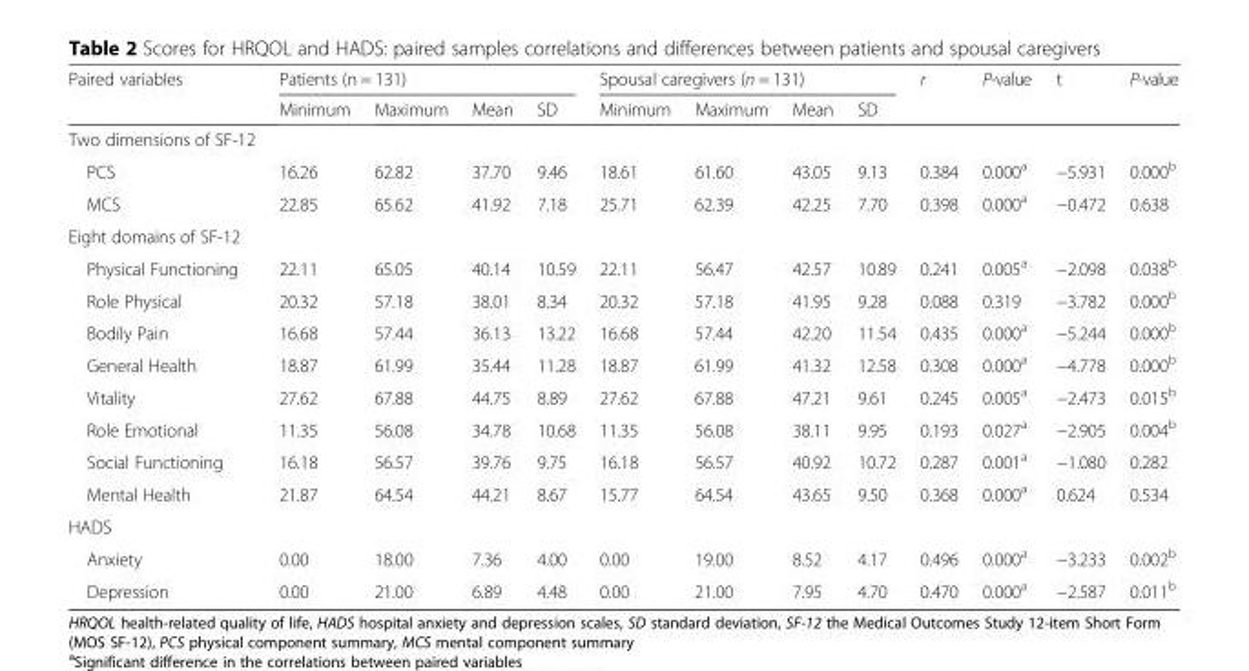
<table><thead><tr><td rowspan="2">Paired variables</td><td colspan="4">Patients (n = 131)</td><td colspan="4">Spousal caregivers (n = 131)</td><td rowspan="2">r</td><td rowspan="2">P-value</td><td rowspan="2">t</td><td rowspan="2">P-value</td></tr><tr><td>Minimum</td><td>Maximum</td><td>Mean</td><td>SD</td><td>Minimum</td><td>Maximum</td><td>Mean</td><td>SD</td></tr></thead><tbody><tr><td colspan="13">Two dimensions of SF-12</td></tr><tr><td>PCS</td><td>16.26</td><td>62.82</td><td>37.70</td><td>9.46</td><td>18.61</td><td>61.60</td><td>43.05</td><td>9.13</td><td>0.384</td><td>0.000<sup>a</sup></td><td>−5.931</td><td>0.000<sup>b</sup></td></tr><tr><td>MCS</td><td>22.85</td><td>65.62</td><td>41.92</td><td>7.18</td><td>25.71</td><td>62.39</td><td>42.25</td><td>7.70</td><td>0.398</td><td>0.000<sup>a</sup></td><td>−0.472</td><td>0.638</td></tr><tr><td colspan="13">Eight domains of SF-12</td></tr><tr><td>Physical Functioning</td><td>22.11</td><td>65.05</td><td>40.14</td><td>10.59</td><td>22.11</td><td>56.47</td><td>42.57</td><td>10.89</td><td>0.241</td><td>0.005<sup>a</sup></td><td>−2.098</td><td>0.038<sup>b</sup></td></tr><tr><td>Role Physical</td><td>20.32</td><td>57.18</td><td>38.01</td><td>8.34</td><td>20.32</td><td>57.18</td><td>41.95</td><td>9.28</td><td>0.088</td><td>0.319</td><td>−3.782</td><td>0.000<sup>b</sup></td></tr><tr><td>Bodily Pain</td><td>16.68</td><td>57.44</td><td>36.13</td><td>13.22</td><td>16.68</td><td>57.44</td><td>42.20</td><td>11.54</td><td>0.435</td><td>0.000<sup>a</sup></td><td>−5.244</td><td>0.000<sup>b</sup></td></tr><tr><td>General Health</td><td>18.87</td><td>61.99</td><td>35.44</td><td>11.28</td><td>18.87</td><td>61.99</td><td>41.32</td><td>12.58</td><td>0.308</td><td>0.000<sup>a</sup></td><td>−4.778</td><td>0.000<sup>b</sup></td></tr><tr><td>Vitality</td><td>27.62</td><td>67.88</td><td>44.75</td><td>8.89</td><td>27.62</td><td>67.88</td><td>47.21</td><td>9.61</td><td>0.245</td><td>0.005<sup>a</sup></td><td>−2.473</td><td>0.015<sup>b</sup></td></tr><tr><td>Role Emotional</td><td>11.35</td><td>56.08</td><td>34.78</td><td>10.68</td><td>11.35</td><td>56.08</td><td>38.11</td><td>9.95</td><td>0.193</td><td>0.027<sup>a</sup></td><td>−2.905</td><td>0.004<sup>b</sup></td></tr><tr><td>Social Functioning</td><td>16.18</td><td>56.57</td><td>39.76</td><td>9.75</td><td>16.18</td><td>56.57</td><td>40.92</td><td>10.72</td><td>0.287</td><td>0.001<sup>a</sup></td><td>−1.080</td><td>0.282</td></tr><tr><td>Mental Health</td><td>21.87</td><td>64.54</td><td>44.21</td><td>8.67</td><td>15.77</td><td>64.54</td><td>43.65</td><td>9.50</td><td>0.368</td><td>0.000<sup>a</sup></td><td>0.624</td><td>0.534</td></tr><tr><td colspan="13">HADS</td></tr><tr><td>Anxiety</td><td>0.00</td><td>18.00</td><td>7.36</td><td>4.00</td><td>0.00</td><td>19.00</td><td>8.52</td><td>4.17</td><td>0.496</td><td>0.000<sup>a</sup></td><td>−3.233</td><td>0.002<sup>b</sup></td></tr><tr><td>Depression</td><td>0.00</td><td>21.00</td><td>6.89</td><td>4.48</td><td>0.00</td><td>21.00</td><td>7.95</td><td>4.70</td><td>0.470</td><td>0.000<sup>a</sup></td><td>−2.587</td><td>0.011<sup>b</sup></td></tr></tbody></table>